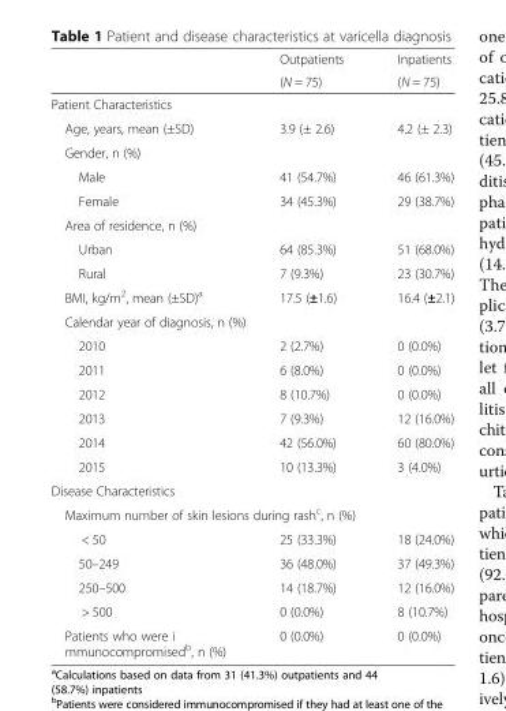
<table><thead><tr><td rowspan="2"></td><td rowspan="2">Outpatients (N = 75)</td><td rowspan="2">Inpatients (N = 75)</td></tr><tr></tr></thead><tbody><tr><td colspan="3">Patient Characteristics</td></tr><tr><td>Age, years, mean (±SD)</td><td>3.9 (± 2.6)</td><td>4.2 (± 2.3)</td></tr><tr><td colspan="3">Gender, n (%)</td></tr><tr><td>Male</td><td>41 (54.7%)</td><td>46 (61.3%)</td></tr><tr><td>Female</td><td>34 (45.3%)</td><td>29 (38.7%)</td></tr><tr><td colspan="3">Area of residence, n (%)</td></tr><tr><td>Urban</td><td>64 (85.3%)</td><td>51 (68.0%)</td></tr><tr><td>Rural</td><td>7 (9.3%)</td><td>23 (30.7%)</td></tr><tr><td>BMI, kg/m<sup>2</sup>, mean (±SD)<sup>a</sup></td><td>17.5 (±1.6)</td><td>16.4 (±2.1)</td></tr><tr><td colspan="3">Calendar year of diagnosis, n (%)</td></tr><tr><td>2010</td><td>2 (2.7%)</td><td>0 (0.0%)</td></tr><tr><td>2011</td><td>6 (8.0%)</td><td>0 (0.0%)</td></tr><tr><td>2012</td><td>8 (10.7%)</td><td>0 (0.0%)</td></tr><tr><td>2013</td><td>7 (9.3%)</td><td>12 (16.0%)</td></tr><tr><td>2014</td><td>42 (56.0%)</td><td>60 (80.0%)</td></tr><tr><td>2015</td><td>10 (13.3%)</td><td>3 (4.0%)</td></tr><tr><td colspan="3">Disease Characteristics</td></tr><tr><td colspan="3">Maximum number of skin lesions during rash<sup>c</sup>, n (%)</td></tr><tr><td>&lt; 50</td><td>25 (33.3%)</td><td>18 (24.0%)</td></tr><tr><td>50–249</td><td>36 (48.0%)</td><td>37 (49.3%)</td></tr><tr><td>250–500</td><td>14 (18.7%)</td><td>12 (16.0%)</td></tr><tr><td>&gt; 500</td><td>0 (0.0%)</td><td>8 (10.7%)</td></tr><tr><td>Patients who were i mmunocompromised<sup>b</sup>, n (%)</td><td>0 (0.0%)</td><td>0 (0.0%)</td></tr></tbody></table>